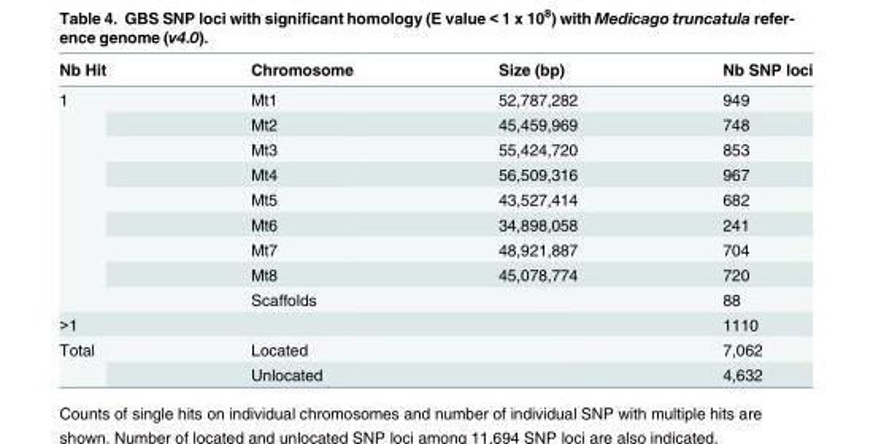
<table><thead><tr><td>Nb Hit</td><td>Chromosome</td><td>Size (bp)</td><td>Nb SNP loci</td></tr></thead><tbody><tr><td rowspan="9">1</td><td>Mt1</td><td>52,787,282</td><td>949</td></tr><tr><td>Mt2</td><td>45,459,969</td><td>748</td></tr><tr><td>Mt3</td><td>55,424,720</td><td>853</td></tr><tr><td>Mt4</td><td>56,509,316</td><td>967</td></tr><tr><td>Mt5</td><td>43,527,414</td><td>682</td></tr><tr><td>Mt6</td><td>34,898,058</td><td>241</td></tr><tr><td>Mt7</td><td>48,921,887</td><td>704</td></tr><tr><td>Mt8</td><td>45,078,774</td><td>720</td></tr><tr><td>Scaffolds</td><td></td><td>88</td></tr><tr><td>&gt;1</td><td></td><td></td><td>1110</td></tr><tr><td rowspan="2">Total</td><td>Located</td><td></td><td>7,062</td></tr><tr><td>Unlocated</td><td></td><td>4,632</td></tr></tbody></table>